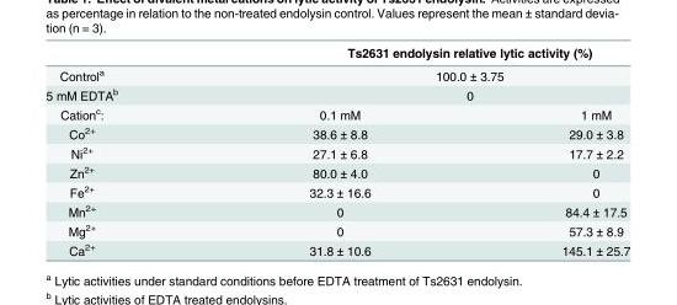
<table><thead><tr><td rowspan="4">Control<sup>a</sup> 5 mM EDTA<sup>b</sup> Cation<sup>c</sup>:</td><td rowspan="3" colspan="2">Ts2631 endolysin relative lytic activity (%) 100.0 ± 3.75 0</td></tr><tr></tr><tr></tr><tr><td>0.1 mM</td><td>1 mM</td></tr></thead><tbody><tr><td>Co<sup>2+</sup></td><td>38.6 ± 8.8</td><td>29.0 ± 3.8</td></tr><tr><td>Ni<sup>2+</sup></td><td>27.1 ± 6.8</td><td>17.7 ± 2.2</td></tr><tr><td>Zn<sup>2+</sup></td><td>80.0 ± 4.0</td><td>0</td></tr><tr><td>Fe<sup>2+</sup></td><td>32.3 ± 16.6</td><td>0</td></tr><tr><td>Mn<sup>2+</sup></td><td>0</td><td>84.4 ± 17.5</td></tr><tr><td>Mg<sup>2+</sup></td><td>0</td><td>57.3 ± 8.9</td></tr><tr><td>Ca<sup>2+</sup></td><td>31.8 ± 10.6</td><td>145.1 ± 25.7</td></tr></tbody></table>